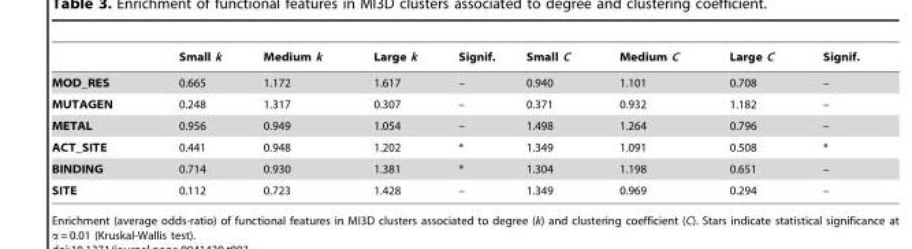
<table><thead><tr><td></td><td>Small k</td><td>Medium k</td><td>Large k</td><td>Signif.</td><td>Small C</td><td>Medium C</td><td>Large C</td><td>Signif.</td></tr></thead><tbody><tr><td>MOD_RES</td><td>0.665</td><td>1.172</td><td>1.617</td><td>–</td><td>0.940</td><td>1.101</td><td>0.708</td><td>–</td></tr><tr><td>MUTAGEN</td><td>0.248</td><td>1.317</td><td>0.307</td><td>–</td><td>0.371</td><td>0.932</td><td>1.182</td><td>–</td></tr><tr><td>METAL</td><td>0.956</td><td>0.949</td><td>1.054</td><td>–</td><td>1.498</td><td>1.264</td><td>0.796</td><td>–</td></tr><tr><td>ACT_SITE</td><td>0.441</td><td>0.948</td><td>1.202</td><td>*</td><td>1.349</td><td>1.091</td><td>0.508</td><td>*</td></tr><tr><td>BINDING</td><td>0.714</td><td>0.930</td><td>1.381</td><td>*</td><td>1.304</td><td>1.198</td><td>0.651</td><td>–</td></tr><tr><td>SITE</td><td>0.112</td><td>0.723</td><td>1.428</td><td>–</td><td>1.349</td><td>0.969</td><td>0.294</td><td>–</td></tr></tbody></table>